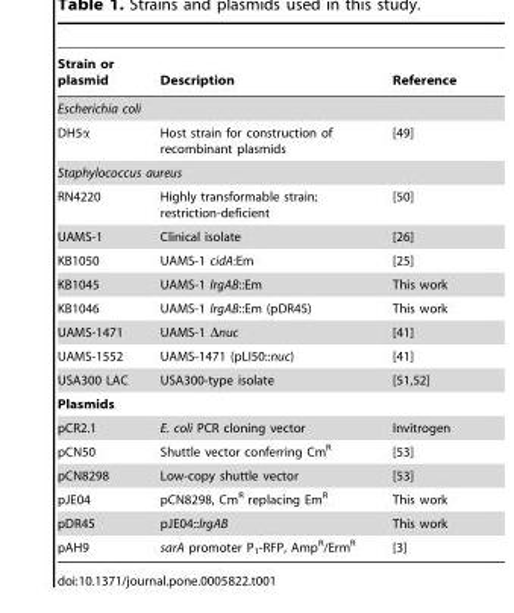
<table><thead><tr><td>Strain or plasmid</td><td>Description</td><td>Reference</td></tr></thead><tbody><tr><td colspan="3">Escherichia coli</td></tr><tr><td>DH5α</td><td>Host strain for construction of recombinant plasmids</td><td>[49]</td></tr><tr><td colspan="3">Staphylococcus aureus</td></tr><tr><td>RN4220</td><td>Highly transformable strain; restriction-deficient</td><td>[50]</td></tr><tr><td>UAMS-1</td><td>Clinical isolate</td><td>[26]</td></tr><tr><td>KB1050</td><td>UAMS-1 cidA:Em</td><td>[25]</td></tr><tr><td>KB1045</td><td>UAMS-1 lrgAB::Em</td><td>This work</td></tr><tr><td>KB1046</td><td>UAMS-1 lrgAB::Em (pDR45)</td><td>This work</td></tr><tr><td>UAMS-1471</td><td>UAMS-1 Δnuc</td><td>[41]</td></tr><tr><td>UAMS-1552</td><td>UAMS-1471 (pLI50::nuc)</td><td>[41]</td></tr><tr><td>USA300 LAC</td><td>USA300-type isolate</td><td>[51,52]</td></tr><tr><td colspan="3">Plasmids</td></tr><tr><td>pCR2.1</td><td>E. coli PCR cloning vector</td><td>Invitrogen</td></tr><tr><td>pCN50</td><td>Shuttle vector conferring Cm<sup>R</sup></td><td>[53]</td></tr><tr><td>pCN8298</td><td>Low-copy shuttle vector</td><td>[53]</td></tr><tr><td>pJE04</td><td>pCN8298, Cm<sup>R</sup> replacing Em<sup>R</sup></td><td>This work</td></tr><tr><td>pDR45</td><td>pJE04::lrgAB</td><td>This work</td></tr><tr><td>pAH9</td><td>sarA promoter P<sub>1</sub>-RFP, Amp<sup>R</sup>/Erm<sup>R</sup></td><td>[3]</td></tr></tbody></table>